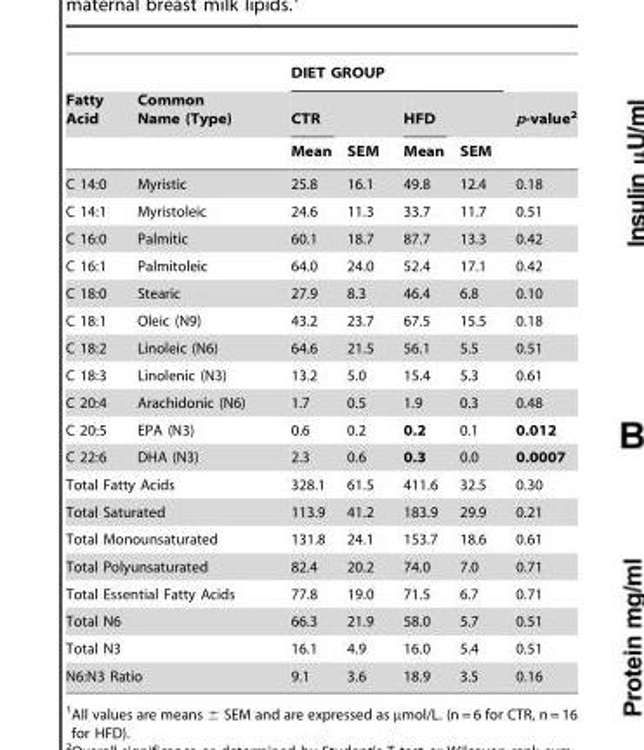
<table><thead><tr><td rowspan="3">Fatty Acid</td><td rowspan="3">Common Name (Type)</td><td colspan="4">DIET GROUP</td><td rowspan="3">p-value<sup>2</sup></td></tr><tr><td rowspan="2">CTR Mean</td><td rowspan="2">SEM</td><td rowspan="2">HFD Mean</td><td rowspan="2">SEM</td></tr><tr></tr></thead><tbody><tr><td>C 14:0</td><td>Myristic</td><td>25.8</td><td>16.1</td><td>49.8</td><td>12.4</td><td>0.18</td></tr><tr><td>C 14:1</td><td>Myristoleic</td><td>24.6</td><td>11.3</td><td>33.7</td><td>11.7</td><td>0.51</td></tr><tr><td>C 16:0</td><td>Palmitic</td><td>60.1</td><td>18.7</td><td>87.7</td><td>13.3</td><td>0.42</td></tr><tr><td>C 16:1</td><td>Palmitoleic</td><td>64.0</td><td>24.0</td><td>52.4</td><td>17.1</td><td>0.42</td></tr><tr><td>C 18:0</td><td>Stearic</td><td>27.9</td><td>8.3</td><td>46.4</td><td>6.8</td><td>0.10</td></tr><tr><td>C 18:1</td><td>Oleic (N9)</td><td>43.2</td><td>23.7</td><td>67.5</td><td>15.5</td><td>0.18</td></tr><tr><td>C 18:2</td><td>Linoleic (N6)</td><td>64.6</td><td>21.5</td><td>56.1</td><td>5.5</td><td>0.51</td></tr><tr><td>C 18:3</td><td>Linolenic (N3)</td><td>13.2</td><td>5.0</td><td>15.4</td><td>5.3</td><td>0.61</td></tr><tr><td>C 20:4</td><td>Arachidonic (N6)</td><td>1.7</td><td>0.5</td><td>1.9</td><td>0.3</td><td>0.48</td></tr><tr><td>C 20:5</td><td>EPA (N3)</td><td>0.6</td><td>0.2</td><td>0.2</td><td>0.1</td><td>0.012</td></tr><tr><td>C 22:6</td><td>DHA (N3)</td><td>2.3</td><td>0.6</td><td>0.3</td><td>0.0</td><td>0.0007</td></tr><tr><td colspan="2">Total Fatty Acids</td><td>328.1</td><td>61.5</td><td>411.6</td><td>32.5</td><td>0.30</td></tr><tr><td colspan="2">Total Saturated</td><td>113.9</td><td>41.2</td><td>183.9</td><td>29.9</td><td>0.21</td></tr><tr><td colspan="2">Total Monounsaturated</td><td>131.8</td><td>24.1</td><td>153.7</td><td>18.6</td><td>0.61</td></tr><tr><td colspan="2">Total Polyunsaturated</td><td>82.4</td><td>20.2</td><td>74.0</td><td>7.0</td><td>0.71</td></tr><tr><td colspan="2">Total Essential Fatty Acids</td><td>77.8</td><td>19.0</td><td>71.5</td><td>6.7</td><td>0.71</td></tr><tr><td colspan="2">Total N6</td><td>66.3</td><td>21.9</td><td>58.0</td><td>5.7</td><td>0.51</td></tr><tr><td colspan="2">Total N3</td><td>16.1</td><td>4.9</td><td>16.0</td><td>5.4</td><td>0.51</td></tr><tr><td colspan="2">N6:N3 Ratio</td><td>9.1</td><td>3.6</td><td>18.9</td><td>3.5</td><td>0.16</td></tr></tbody></table>